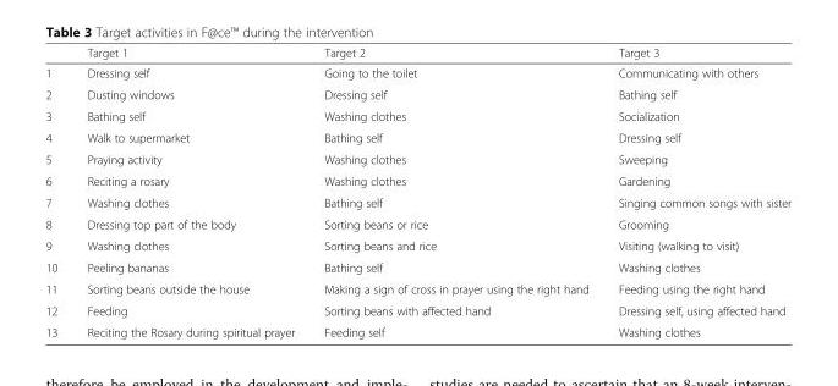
<table><thead><tr><td></td><td>Target 1</td><td>Target 2</td><td>Target 3</td></tr></thead><tbody><tr><td>1</td><td>Dressing self</td><td>Going to the toilet</td><td>Communicating with others</td></tr><tr><td>2</td><td>Dusting windows</td><td>Dressing self</td><td>Bathing self</td></tr><tr><td>3</td><td>Bathing self</td><td>Washing clothes</td><td>Socialization</td></tr><tr><td>4</td><td>Walk to supermarket</td><td>Bathing self</td><td>Dressing self</td></tr><tr><td>5</td><td>Praying activity</td><td>Washing clothes</td><td>Sweeping</td></tr><tr><td>6</td><td>Reciting a rosary</td><td>Washing clothes</td><td>Gardening</td></tr><tr><td>7</td><td>Washing clothes</td><td>Bathing self</td><td>Singing common songs with sister</td></tr><tr><td>8</td><td>Dressing top part of the body</td><td>Sorting beans or rice</td><td>Grooming</td></tr><tr><td>9</td><td>Washing clothes</td><td>Sorting beans and rice</td><td>Visiting (walking to visit)</td></tr><tr><td>10</td><td>Peeling bananas</td><td>Bathing self</td><td>Washing clothes</td></tr><tr><td>11</td><td>Sorting beans outside the house</td><td>Making a sign of cross in prayer using the right hand</td><td>Feeding using the right hand</td></tr><tr><td>12</td><td>Feeding</td><td>Sorting beans with affected hand</td><td>Dressing self, using affected hand</td></tr><tr><td>13</td><td>Reciting the Rosary during spiritual prayer</td><td>Feeding self</td><td>Washing clothes</td></tr></tbody></table>